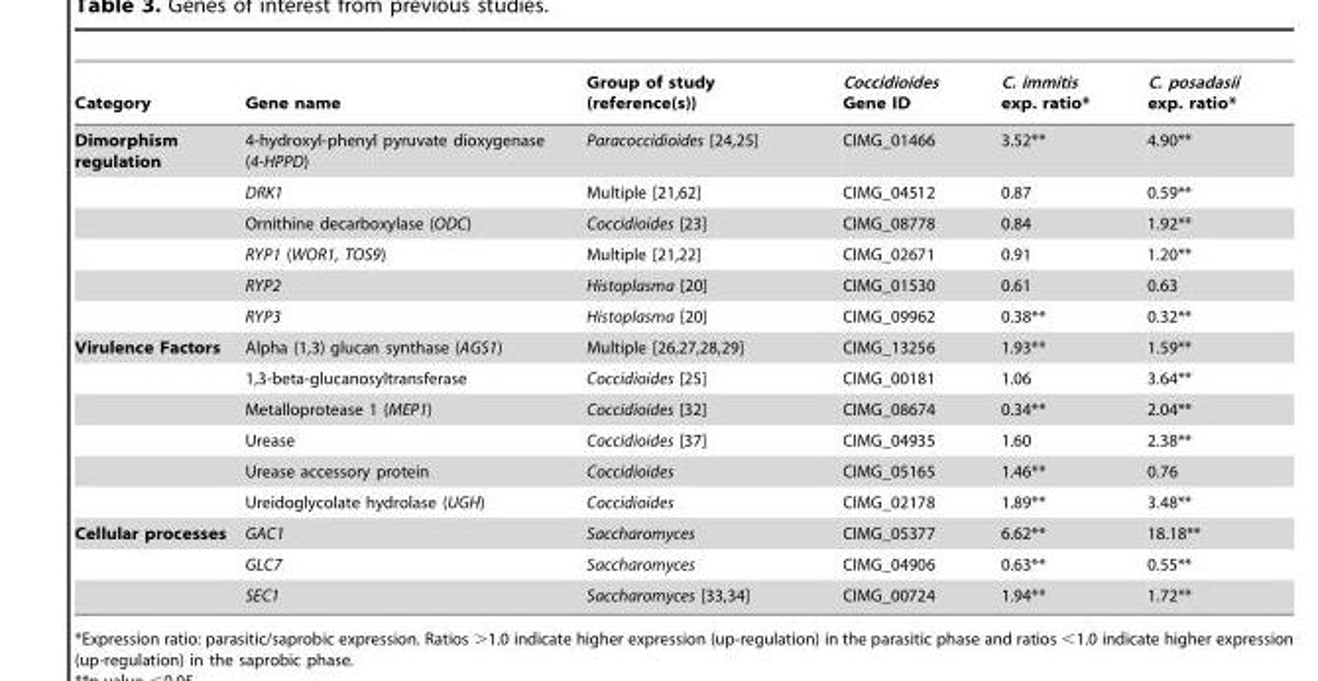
<table><thead><tr><td>Category</td><td>Gene name</td><td>Group of study (reference(s))</td><td>Coccidioides Gene ID</td><td>C. immitis exp. ratio*</td><td>C. posadasii exp. ratio*</td></tr></thead><tbody><tr><td rowspan="6">Dimorphism regulation</td><td>4-hydroxyl-phenyl pyruvate dioxygenase (4-HPPD)</td><td>Paracoccidioides [24,25]</td><td>CIMG_01466</td><td>3.52**</td><td>4.90**</td></tr><tr><td>DRK1</td><td>Multiple [21,62]</td><td>CIMG_04512</td><td>0.87</td><td>0.59**</td></tr><tr><td>Ornithine decarboxylase (ODC)</td><td>Coccidioides [23]</td><td>CIMG_08778</td><td>0.84</td><td>1.92**</td></tr><tr><td>RYP1 (WOR1, TOS9)</td><td>Multiple [21,22]</td><td>CIMG_02671</td><td>0.91</td><td>1.20**</td></tr><tr><td>RYP2</td><td>Histoplasma [20]</td><td>CIMG_01530</td><td>0.61</td><td>0.63</td></tr><tr><td>RYP3</td><td>Histoplasma [20]</td><td>CIMG_09962</td><td>0.38**</td><td>0.32**</td></tr><tr><td rowspan="6">Virulence Factors</td><td>Alpha (1,3) glucan synthase (AGS1)</td><td>Multiple [26,27,28,29]</td><td>CIMG_13256</td><td>1.93**</td><td>1.59**</td></tr><tr><td>1,3-beta-glucanosyltransferase</td><td>Coccidioides [25]</td><td>CIMG_00181</td><td>1.06</td><td>3.64**</td></tr><tr><td>Metalloprotease 1 (MEP1)</td><td>Coccidioides [32]</td><td>CIMG_08674</td><td>0.34**</td><td>2.04**</td></tr><tr><td>Urease</td><td>Coccidioides [37]</td><td>CIMG_04935</td><td>1.60</td><td>2.38**</td></tr><tr><td>Urease accessory protein</td><td>Coccidioides</td><td>CIMG_05165</td><td>1.46**</td><td>0.76</td></tr><tr><td>Ureidoglycolate hydrolase (UGH)</td><td>Coccidioides</td><td>CIMG_02178</td><td>1.89**</td><td>3.48**</td></tr><tr><td rowspan="3">Cellular processes</td><td>GAC1</td><td>Saccharomyces</td><td>CIMG_05377</td><td>6.62**</td><td>18.18**</td></tr><tr><td>GLC7</td><td>Saccharomyces</td><td>CIMG_04906</td><td>0.63**</td><td>0.55**</td></tr><tr><td>SEC1</td><td>Saccharomyces [33,34]</td><td>CIMG_00724</td><td>1.94**</td><td>1.72**</td></tr></tbody></table>